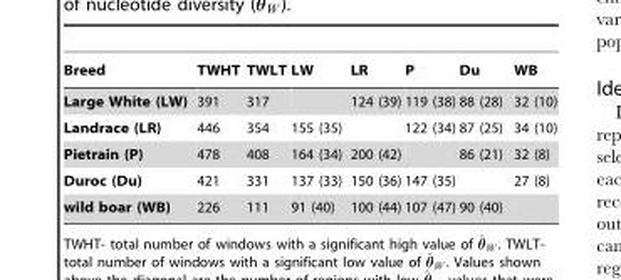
<table><thead><tr><td>Breed</td><td>TWHT</td><td>TWLT</td><td>LW</td><td>LR</td><td>P</td><td>Du</td><td>WB</td></tr></thead><tbody><tr><td>Large White (LW)</td><td>391</td><td>317</td><td></td><td>124 (39)</td><td>119 (38)</td><td>88 (28)</td><td>32 (10)</td></tr><tr><td>Landrace (LR)</td><td>446</td><td>354</td><td>155 (35)</td><td></td><td>122 (34)</td><td>87 (25)</td><td>34 (10)</td></tr><tr><td>Pietrain (P)</td><td>478</td><td>408</td><td>164 (34)</td><td>200 (42)</td><td></td><td>86 (21)</td><td>32 (8)</td></tr><tr><td>Duroc (Du)</td><td>421</td><td>331</td><td>137 (33)</td><td>150 (36)</td><td>147 (35)</td><td></td><td>27 (8)</td></tr><tr><td>wild boar (WB)</td><td>226</td><td>111</td><td>91 (40)</td><td>100 (44)</td><td>107 (47)</td><td>90 (40)</td><td></td></tr></tbody></table>